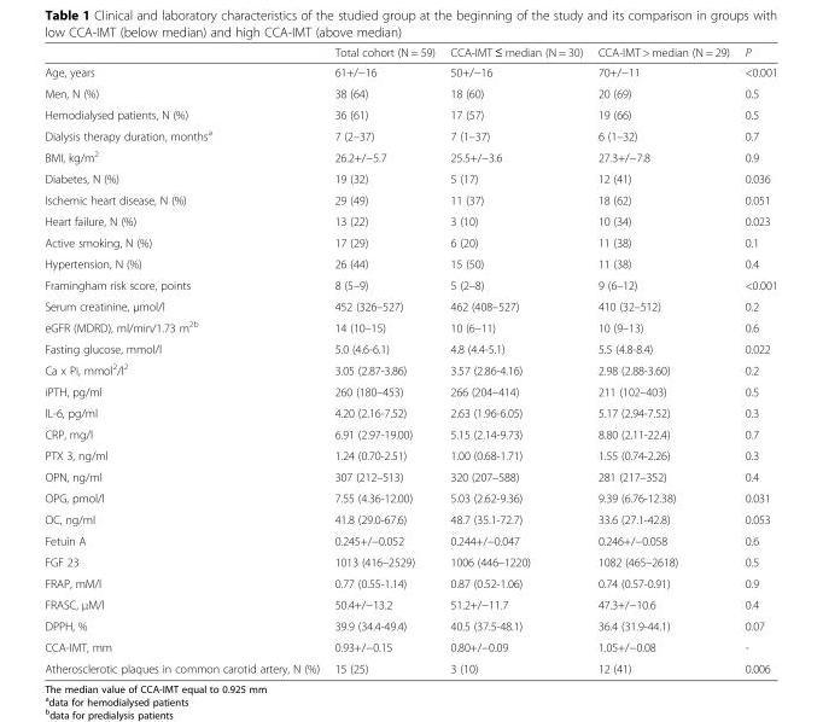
<table><thead><tr><td></td><td>Total cohort (N = 59)</td><td>CCA-IMT ≤ median (N = 30)</td><td>CCA-IMT &gt; median (N = 29)</td><td>P</td></tr></thead><tbody><tr><td>Age, years</td><td>61+/−16</td><td>50+/−16</td><td>70+/−11</td><td>&lt;0.001</td></tr><tr><td>Men, N (%)</td><td>38 (64)</td><td>18 (60)</td><td>20 (69)</td><td>0.5</td></tr><tr><td>Hemodialysed patients, N (%)</td><td>36 (61)</td><td>17 (57)</td><td>19 (66)</td><td>0.5</td></tr><tr><td>Dialysis therapy duration, months<sup>a</sup></td><td>7 (2–37)</td><td>7 (1–37)</td><td>6 (1–32)</td><td>0.7</td></tr><tr><td>BMI, kg/m<sup>2</sup></td><td>26.2+/−5.7</td><td>25.5+/−3.6</td><td>27.3+/−7.8</td><td>0.9</td></tr><tr><td>Diabetes, N (%)</td><td>19 (32)</td><td>5 (17)</td><td>12 (41)</td><td>0.036</td></tr><tr><td>Ischemic heart disease, N (%)</td><td>29 (49)</td><td>11 (37)</td><td>18 (62)</td><td>0.051</td></tr><tr><td>Heart failure, N (%)</td><td>13 (22)</td><td>3 (10)</td><td>10 (34)</td><td>0.023</td></tr><tr><td>Active smoking, N (%)</td><td>17 (29)</td><td>6 (20)</td><td>11 (38)</td><td>0.1</td></tr><tr><td>Hypertension, N (%)</td><td>26 (44)</td><td>15 (50)</td><td>11 (38)</td><td>0.4</td></tr><tr><td>Framingham risk score, points</td><td>8 (5–9)</td><td>5 (2–8)</td><td>9 (6–12)</td><td>&lt;0.001</td></tr><tr><td>Serum creatinine, μmol/l</td><td>452 (326–527)</td><td>462 (408–527)</td><td>410 (32–512)</td><td>0.2</td></tr><tr><td>eGFR (MDRD), ml/min/1.73 m<sup>2b</sup></td><td>14 (10–15)</td><td>10 (6–11)</td><td>10 (9–13)</td><td>0.6</td></tr><tr><td>Fasting glucose, mmol/l</td><td>5.0 (4.6-6.1)</td><td>4.8 (4.4-5.1)</td><td>5.5 (4.8-8.4)</td><td>0.022</td></tr><tr><td>Ca x Pi, mmol<sup>2</sup>/l<sup>2</sup></td><td>3.05 (2.87-3.86)</td><td>3.57 (2.86-4.16)</td><td>2.98 (2.88-3.60)</td><td>0.2</td></tr><tr><td>iPTH, pg/ml</td><td>260 (180–453)</td><td>266 (204–414)</td><td>211 (102–403)</td><td>0.5</td></tr><tr><td>IL-6, pg/ml</td><td>4.20 (2.16-7.52)</td><td>2.63 (1.96-6.05)</td><td>5.17 (2.94-7.52)</td><td>0.3</td></tr><tr><td>CRP, mg/l</td><td>6.91 (2.97-19.00)</td><td>5.15 (2.14-9.73)</td><td>8.80 (2.11-22.4)</td><td>0.7</td></tr><tr><td>PTX 3, ng/ml</td><td>1.24 (0.70-2.51)</td><td>1.00 (0.68-1.71)</td><td>1.55 (0.74-2.26)</td><td>0.3</td></tr><tr><td>OPN, ng/ml</td><td>307 (212–513)</td><td>320 (207–588)</td><td>281 (217–352)</td><td>0.4</td></tr><tr><td>OPG, pmol/l</td><td>7.55 (4.36-12.00)</td><td>5.03 (2.62-9.36)</td><td>9.39 (6.76-12.38)</td><td>0.031</td></tr><tr><td>OC, ng/ml</td><td>41.8 (29.0-67.6)</td><td>48.7 (35.1-72.7)</td><td>33.6 (27.1-42.8)</td><td>0.053</td></tr><tr><td>Fetuin A</td><td>0.245+/−0.052</td><td>0.244+/−0.047</td><td>0.246+/−0.058</td><td>0.6</td></tr><tr><td>FGF 23</td><td>1013 (416–2529)</td><td>1006 (446–1220)</td><td>1082 (465–2618)</td><td>0.5</td></tr><tr><td>FRAP, mM/l</td><td>0.77 (0.55-1.14)</td><td>0.87 (0.52-1.06)</td><td>0.74 (0.57-0.91)</td><td>0.9</td></tr><tr><td>FRASC, μM/l</td><td>50.4+/−13.2</td><td>51.2+/−11.7</td><td>47.3+/−10.6</td><td>0.4</td></tr><tr><td>DPPH, %</td><td>39.9 (34.4-49.4)</td><td>40.5 (37.5-48.1)</td><td>36.4 (31.9-44.1)</td><td>0.07</td></tr><tr><td>CCA-IMT, mm</td><td>0.93+/−0.15</td><td>0.80+/−0.09</td><td>1.05+/−0.08</td><td>-</td></tr><tr><td>Atherosclerotic plaques in common carotid artery, N (%)</td><td>15 (25)</td><td>3 (10)</td><td>12 (41)</td><td>0.006</td></tr></tbody></table>